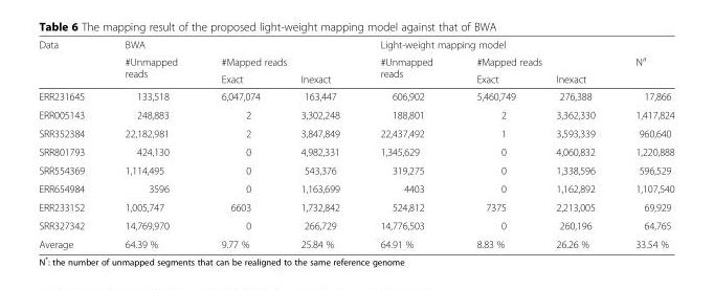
<table><thead><tr><td rowspan="3">Data</td><td colspan="3">BWA</td><td colspan="4">Light-weight mapping model</td></tr><tr><td rowspan="2">#Unmapped reads</td><td colspan="2">#Mapped reads</td><td rowspan="2">#Unmapped reads</td><td colspan="2">#Mapped reads</td><td rowspan="2">N<sup>a</sup></td></tr><tr><td>Exact</td><td>Inexact</td><td>Exact</td><td>Inexact</td></tr></thead><tbody><tr><td>ERR231645</td><td>133,518</td><td>6,047,074</td><td>163,447</td><td>606,902</td><td>5,460,749</td><td>276,388</td><td>17,866</td></tr><tr><td>ERR005143</td><td>248,883</td><td>2</td><td>3,302,248</td><td>188,801</td><td>2</td><td>3,362,330</td><td>1,417,824</td></tr><tr><td>SRR352384</td><td>22,182,981</td><td>2</td><td>3,847,849</td><td>22,437,492</td><td>1</td><td>3,593,339</td><td>960,640</td></tr><tr><td>SRR801793</td><td>424,130</td><td>0</td><td>4,982,331</td><td>1,345,629</td><td>0</td><td>4,060,832</td><td>1,220,888</td></tr><tr><td>SRR554369</td><td>1,114,495</td><td>0</td><td>543,376</td><td>319,275</td><td>0</td><td>1,338,596</td><td>596,529</td></tr><tr><td>ERR654984</td><td>3596</td><td>0</td><td>1,163,699</td><td>4403</td><td>0</td><td>1,162,892</td><td>1,107,540</td></tr><tr><td>ERR233152</td><td>1,005,747</td><td>6603</td><td>1,732,842</td><td>524,812</td><td>7375</td><td>2,213,005</td><td>69,929</td></tr><tr><td>SRR327342</td><td>14,769,970</td><td>0</td><td>266,729</td><td>14,776,503</td><td>0</td><td>260,196</td><td>64,765</td></tr><tr><td>Average</td><td>64.39 %</td><td>9.77 %</td><td>25.84 %</td><td>64.91 %</td><td>8.83 %</td><td>26.26 %</td><td>33.54 %</td></tr></tbody></table>